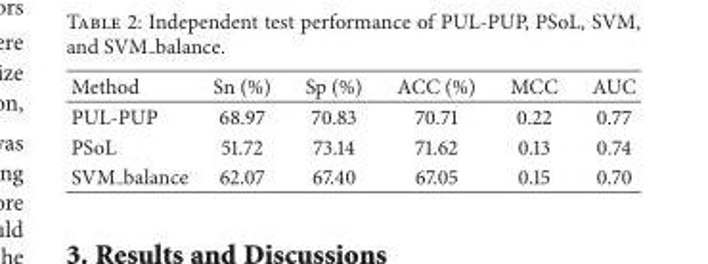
<table><thead><tr><td>Method</td><td>Sn (%)</td><td>Sp (%)</td><td>ACC (%)</td><td>MCC</td><td>AUC</td></tr></thead><tbody><tr><td>PUL-PUP</td><td>68.97</td><td>70.83</td><td>70.71</td><td>0.22</td><td>0.77</td></tr><tr><td>PSoL</td><td>51.72</td><td>73.14</td><td>71.62</td><td>0.13</td><td>0.74</td></tr><tr><td>SVM balance</td><td>62.07</td><td>67.40</td><td>67.05</td><td>0.15</td><td>0.70</td></tr></tbody></table>